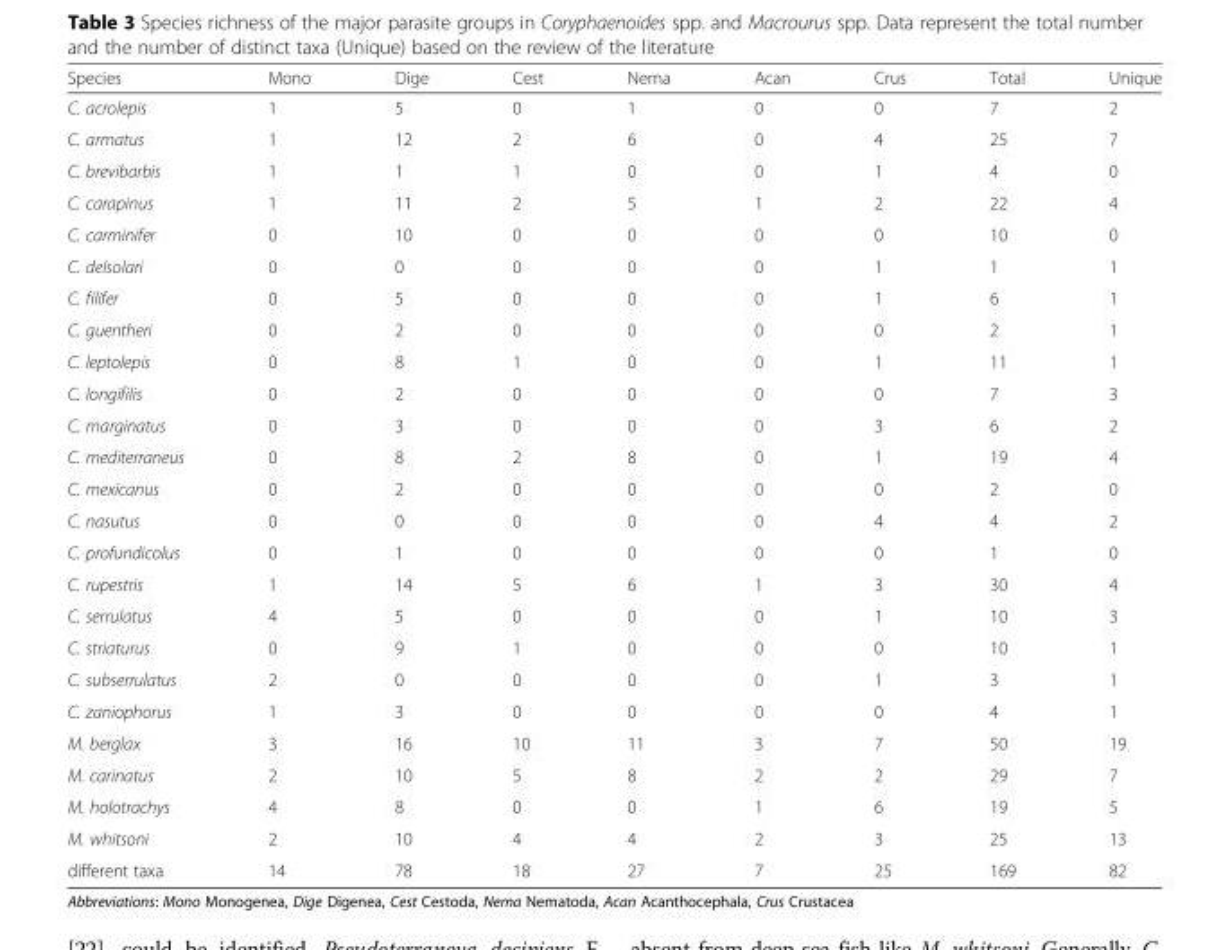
<table><thead><tr><td>Species</td><td>Mono</td><td>Dige</td><td>Cest</td><td>Nema</td><td>Acan</td><td>Crus</td><td>Total</td><td>Unique</td></tr></thead><tbody><tr><td>C. acrolepis</td><td>1</td><td>5</td><td>0</td><td>1</td><td>0</td><td>0</td><td>7</td><td>2</td></tr><tr><td>C. armatus</td><td>1</td><td>12</td><td>2</td><td>6</td><td>0</td><td>4</td><td>25</td><td>7</td></tr><tr><td>C. brevibarbis</td><td>1</td><td>1</td><td>1</td><td>0</td><td>0</td><td>1</td><td>4</td><td>0</td></tr><tr><td>C. carapinus</td><td>1</td><td>11</td><td>2</td><td>5</td><td>1</td><td>2</td><td>22</td><td>4</td></tr><tr><td>C. carminifer</td><td>0</td><td>10</td><td>0</td><td>0</td><td>0</td><td>0</td><td>10</td><td>0</td></tr><tr><td>C. delsolari</td><td>0</td><td>0</td><td>0</td><td>0</td><td>0</td><td>1</td><td>1</td><td>1</td></tr><tr><td>C. filifer</td><td>0</td><td>5</td><td>0</td><td>0</td><td>0</td><td>1</td><td>6</td><td>1</td></tr><tr><td>C. guentheri</td><td>0</td><td>2</td><td>0</td><td>0</td><td>0</td><td>0</td><td>2</td><td>1</td></tr><tr><td>C. leptolepis</td><td>0</td><td>8</td><td>1</td><td>0</td><td>0</td><td>1</td><td>11</td><td>1</td></tr><tr><td>C. longifilis</td><td>0</td><td>2</td><td>0</td><td>0</td><td>0</td><td>0</td><td>7</td><td>3</td></tr><tr><td>C. marginatus</td><td>0</td><td>3</td><td>0</td><td>0</td><td>0</td><td>3</td><td>6</td><td>2</td></tr><tr><td>C. mediterraneus</td><td>0</td><td>8</td><td>2</td><td>8</td><td>0</td><td>1</td><td>19</td><td>4</td></tr><tr><td>C. mexicanus</td><td>0</td><td>2</td><td>0</td><td>0</td><td>0</td><td>0</td><td>2</td><td>0</td></tr><tr><td>C. nasutus</td><td>0</td><td>0</td><td>0</td><td>0</td><td>0</td><td>4</td><td>4</td><td>2</td></tr><tr><td>C. profundicolus</td><td>0</td><td>1</td><td>0</td><td>0</td><td>0</td><td>0</td><td>1</td><td>0</td></tr><tr><td>C. rupestris</td><td>1</td><td>14</td><td>5</td><td>6</td><td>1</td><td>3</td><td>30</td><td>4</td></tr><tr><td>C. serrulatus</td><td>4</td><td>5</td><td>0</td><td>0</td><td>0</td><td>1</td><td>10</td><td>3</td></tr><tr><td>C. striaturus</td><td>0</td><td>9</td><td>1</td><td>0</td><td>0</td><td>0</td><td>10</td><td>1</td></tr><tr><td>C. subserrulatus</td><td>2</td><td>0</td><td>0</td><td>0</td><td>0</td><td>1</td><td>3</td><td>1</td></tr><tr><td>C. zaniophorus</td><td>1</td><td>3</td><td>0</td><td>0</td><td>0</td><td>0</td><td>4</td><td>1</td></tr><tr><td>M. berglax</td><td>3</td><td>16</td><td>10</td><td>11</td><td>3</td><td>7</td><td>50</td><td>19</td></tr><tr><td>M. carinatus</td><td>2</td><td>10</td><td>5</td><td>8</td><td>2</td><td>2</td><td>29</td><td>7</td></tr><tr><td>M. holotrachys</td><td>4</td><td>8</td><td>0</td><td>0</td><td>1</td><td>6</td><td>19</td><td>5</td></tr><tr><td>M. whitsoni</td><td>2</td><td>10</td><td>4</td><td>4</td><td>2</td><td>3</td><td>25</td><td>13</td></tr><tr><td>different taxa</td><td>14</td><td>78</td><td>18</td><td>27</td><td>7</td><td>25</td><td>169</td><td>82</td></tr></tbody></table>